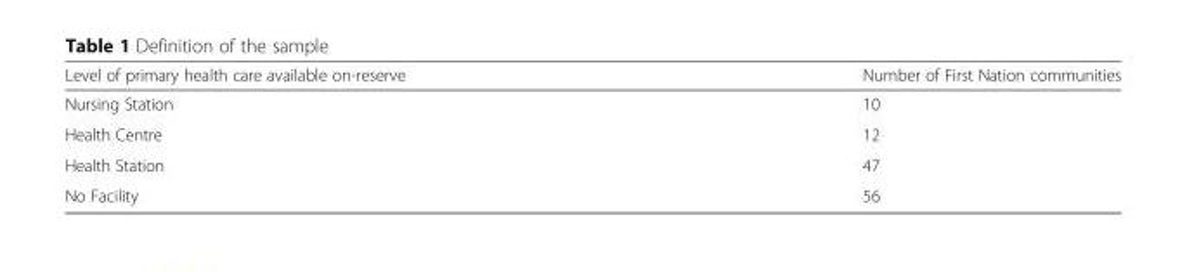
<table><thead><tr><td>Level of primary health care available on-reserve</td><td>Number of First Nation communities</td></tr></thead><tbody><tr><td>Nursing Station</td><td>10</td></tr><tr><td>Health Centre</td><td>12</td></tr><tr><td>Health Station</td><td>47</td></tr><tr><td>No Facility</td><td>56</td></tr></tbody></table>